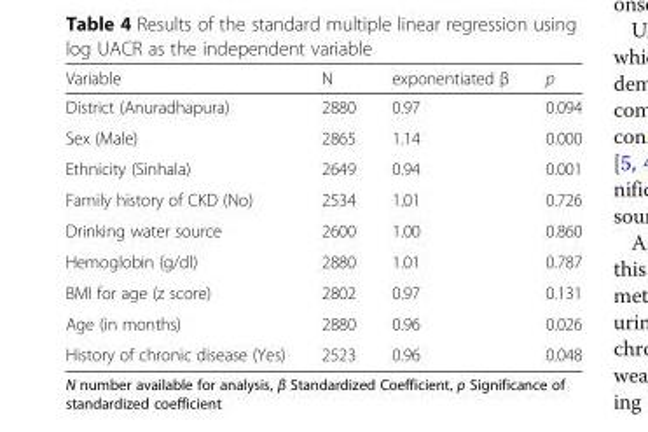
<table><thead><tr><td>Variable</td><td>N</td><td>exponentiated β</td><td>p</td></tr></thead><tbody><tr><td>District (Anuradhapura)</td><td>2880</td><td>0.97</td><td>0.094</td></tr><tr><td>Sex (Male)</td><td>2865</td><td>1.14</td><td>0.000</td></tr><tr><td>Ethnicity (Sinhala)</td><td>2649</td><td>0.94</td><td>0.001</td></tr><tr><td>Family history of CKD (No)</td><td>2534</td><td>1.01</td><td>0.726</td></tr><tr><td>Drinking water source</td><td>2600</td><td>1.00</td><td>0.860</td></tr><tr><td>Hemoglobin (g/dl)</td><td>2880</td><td>1.01</td><td>0.787</td></tr><tr><td>BMI for age (z score)</td><td>2802</td><td>0.97</td><td>0.131</td></tr><tr><td>Age (in months)</td><td>2880</td><td>0.96</td><td>0.026</td></tr><tr><td>History of chronic disease (Yes)</td><td>2523</td><td>0.96</td><td>0.048</td></tr></tbody></table>